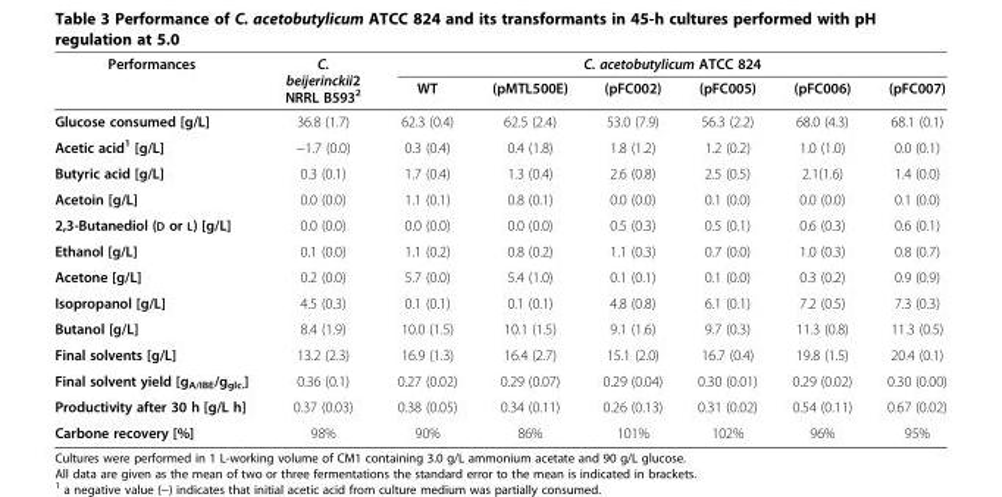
<table><thead><tr><td rowspan="2">Performances</td><td rowspan="2">C. beijerinckii2 NRRL B593<sup>2</sup></td><td colspan="6">C. acetobutylicum ATCC 824</td></tr><tr><td>WT</td><td>(pMTL500E)</td><td>(pFC002)</td><td>(pFC005)</td><td>(pFC006)</td><td>(pFC007)</td></tr></thead><tbody><tr><td>Glucose consumed [g/L]</td><td>36.8 (1.7)</td><td>62.3 (0.4)</td><td>62.5 (2.4)</td><td>53.0 (7.9)</td><td>56.3 (2.2)</td><td>68.0 (4.3)</td><td>68.1 (0.1)</td></tr><tr><td>Acetic acid<sup>1</sup> [g/L]</td><td>−1.7 (0.0)</td><td>0.3 (0.4)</td><td>0.4 (1.8)</td><td>1.8 (1.2)</td><td>1.2 (0.2)</td><td>1.0 (1.0)</td><td>0.0 (0.1)</td></tr><tr><td>Butyric acid [g/L]</td><td>0.3 (0.1)</td><td>1.7 (0.4)</td><td>1.3 (0.4)</td><td>2.6 (0.8)</td><td>2.5 (0.5)</td><td>2.1(1.6)</td><td>1.4 (0.0)</td></tr><tr><td>Acetoin [g/L]</td><td>0.0 (0.0)</td><td>1.1 (0.1)</td><td>0.8 (0.1)</td><td>0.0 (0.0)</td><td>0.1 (0.0)</td><td>0.0 (0.0)</td><td>0.1 (0.0)</td></tr><tr><td>2,3-Butanediol (D or L) [g/L]</td><td>0.0 (0.0)</td><td>0.0 (0.0)</td><td>0.0 (0.0)</td><td>0.5 (0.3)</td><td>0.5 (0.1)</td><td>0.6 (0.3)</td><td>0.6 (0.1)</td></tr><tr><td>Ethanol [g/L]</td><td>0.1 (0.0)</td><td>1.1 (0.2)</td><td>0.8 (0.2)</td><td>1.1 (0.3)</td><td>0.7 (0.0)</td><td>1.0 (0.3)</td><td>0.8 (0.7)</td></tr><tr><td>Acetone [g/L]</td><td>0.2 (0.0)</td><td>5.7 (0.0)</td><td>5.4 (1.0)</td><td>0.1 (0.1)</td><td>0.1 (0.0)</td><td>0.3 (0.2)</td><td>0.9 (0.9)</td></tr><tr><td>Isopropanol [g/L]</td><td>4.5 (0.3)</td><td>0.1 (0.1)</td><td>0.1 (0.1)</td><td>4.8 (0.8)</td><td>6.1 (0.1)</td><td>7.2 (0.5)</td><td>7.3 (0.3)</td></tr><tr><td>Butanol [g/L]</td><td>8.4 (1.9)</td><td>10.0 (1.5)</td><td>10.1 (1.5)</td><td>9.1 (1.6)</td><td>9.7 (0.3)</td><td>11.3 (0.8)</td><td>11.3 (0.5)</td></tr><tr><td>Final solvents [g/L]</td><td>13.2 (2.3)</td><td>16.9 (1.3)</td><td>16.4 (2.7)</td><td>15.1 (2.0)</td><td>16.7 (0.4)</td><td>19.8 (1.5)</td><td>20.4 (0.1)</td></tr><tr><td>Final solvent yield [g<sub>A/IBE</sub>/g<sub>glc.</sub>]</td><td>0.36 (0.1)</td><td>0.27 (0.02)</td><td>0.29 (0.07)</td><td>0.29 (0.04)</td><td>0.30 (0.01)</td><td>0.29 (0.02)</td><td>0.30 (0.00)</td></tr><tr><td>Productivity after 30 h [g/L h]</td><td>0.37 (0.03)</td><td>0.38 (0.05)</td><td>0.34 (0.11)</td><td>0.26 (0.13)</td><td>0.31 (0.02)</td><td>0.54 (0.11)</td><td>0.67 (0.02)</td></tr><tr><td>Carbone recovery [%]</td><td>98%</td><td>90%</td><td>86%</td><td>101%</td><td>102%</td><td>96%</td><td>95%</td></tr></tbody></table>